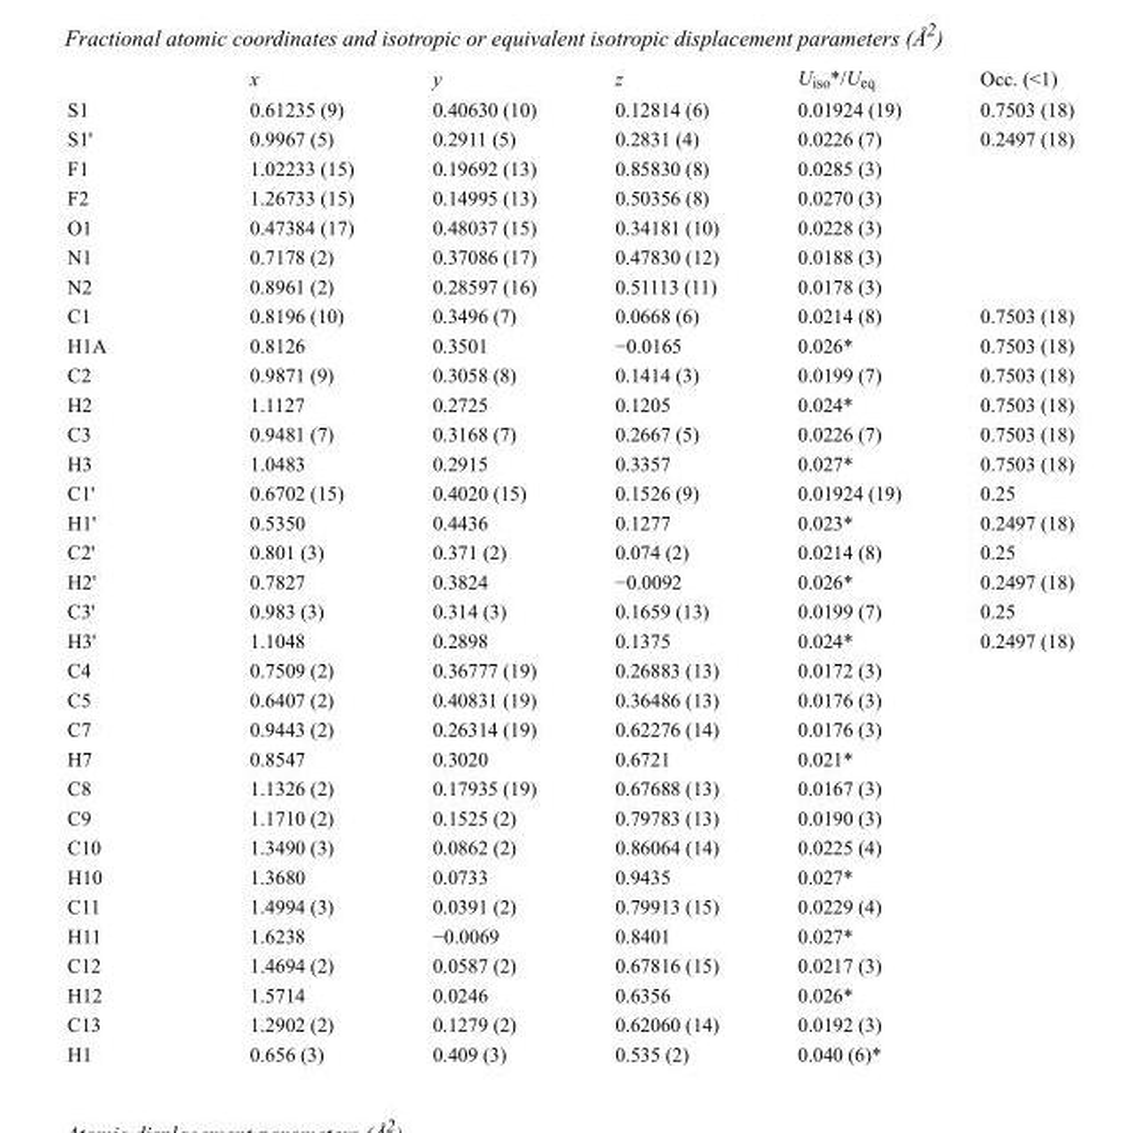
<table><thead><tr><td></td><td>x</td><td>y</td><td>z</td><td>U<sub>iso</sub>*/U<sub>eq</sub></td><td>Occ. (&lt;1)</td></tr></thead><tbody><tr><td>S1</td><td>0.61235 (9)</td><td>0.40630 (10)</td><td>0.12814 (6)</td><td>0.01924 (19)</td><td>0.7503 (18)</td></tr><tr><td>S1&#x27;</td><td>0.9967 (5)</td><td>0.2911 (5)</td><td>0.2831 (4)</td><td>0.0226 (7)</td><td>0.2497 (18)</td></tr><tr><td>F1</td><td>1.02233 (15)</td><td>0.19692 (13)</td><td>0.85830 (8)</td><td>0.0285 (3)</td><td></td></tr><tr><td>F2</td><td>1.26733 (15)</td><td>0.14995 (13)</td><td>0.50356 (8)</td><td>0.0270 (3)</td><td></td></tr><tr><td>O1</td><td>0.47384 (17)</td><td>0.48037 (15)</td><td>0.34181 (10)</td><td>0.0228 (3)</td><td></td></tr><tr><td>N1</td><td>0.7178 (2)</td><td>0.37086 (17)</td><td>0.47830 (12)</td><td>0.0188 (3)</td><td></td></tr><tr><td>N2</td><td>0.8961 (2)</td><td>0.28597 (16)</td><td>0.51113 (11)</td><td>0.0178 (3)</td><td></td></tr><tr><td>C1</td><td>0.8196 (10)</td><td>0.3496 (7)</td><td>0.0668 (6)</td><td>0.0214 (8)</td><td>0.7503 (18)</td></tr><tr><td>H1A</td><td>0.8126</td><td>0.3501</td><td>−0.0165</td><td>0.026*</td><td>0.7503 (18)</td></tr><tr><td>C2</td><td>0.9871 (9)</td><td>0.3058 (8)</td><td>0.1414 (3)</td><td>0.0199 (7)</td><td>0.7503 (18)</td></tr><tr><td>H2</td><td>1.1127</td><td>0.2725</td><td>0.1205</td><td>0.024*</td><td>0.7503 (18)</td></tr><tr><td>C3</td><td>0.9481 (7)</td><td>0.3168 (7)</td><td>0.2667 (5)</td><td>0.0226 (7)</td><td>0.7503 (18)</td></tr><tr><td>H3</td><td>1.0483</td><td>0.2915</td><td>0.3357</td><td>0.027*</td><td>0.7503 (18)</td></tr><tr><td>C1&#x27;</td><td>0.6702 (15)</td><td>0.4020 (15)</td><td>0.1526 (9)</td><td>0.01924 (19)</td><td>0.25</td></tr><tr><td>H1&#x27;</td><td>0.5350</td><td>0.4436</td><td>0.1277</td><td>0.023*</td><td>0.2497 (18)</td></tr><tr><td>C2&#x27;</td><td>0.801 (3)</td><td>0.371 (2)</td><td>0.074 (2)</td><td>0.0214 (8)</td><td>0.25</td></tr><tr><td>H2&#x27;</td><td>0.7827</td><td>0.3824</td><td>−0.0092</td><td>0.026*</td><td>0.2497 (18)</td></tr><tr><td>C3&#x27;</td><td>0.983 (3)</td><td>0.314 (3)</td><td>0.1659 (13)</td><td>0.0199 (7)</td><td>0.25</td></tr><tr><td>H3&#x27;</td><td>1.1048</td><td>0.2898</td><td>0.1375</td><td>0.024*</td><td>0.2497 (18)</td></tr><tr><td>C4</td><td>0.7509 (2)</td><td>0.36777 (19)</td><td>0.26883 (13)</td><td>0.0172 (3)</td><td></td></tr><tr><td>C5</td><td>0.6407 (2)</td><td>0.40831 (19)</td><td>0.36486 (13)</td><td>0.0176 (3)</td><td></td></tr><tr><td>C7</td><td>0.9443 (2)</td><td>0.26314 (19)</td><td>0.62276 (14)</td><td>0.0176 (3)</td><td></td></tr><tr><td>H7</td><td>0.8547</td><td>0.3020</td><td>0.6721</td><td>0.021*</td><td></td></tr><tr><td>C8</td><td>1.1326 (2)</td><td>0.17935 (19)</td><td>0.67688 (13)</td><td>0.0167 (3)</td><td></td></tr><tr><td>C9</td><td>1.1710 (2)</td><td>0.1525 (2)</td><td>0.79783 (13)</td><td>0.0190 (3)</td><td></td></tr><tr><td>C10</td><td>1.3490 (3)</td><td>0.0862 (2)</td><td>0.86064 (14)</td><td>0.0225 (4)</td><td></td></tr><tr><td>H10</td><td>1.3680</td><td>0.0733</td><td>0.9435</td><td>0.027*</td><td></td></tr><tr><td>C11</td><td>1.4994 (3)</td><td>0.0391 (2)</td><td>0.79913 (15)</td><td>0.0229 (4)</td><td></td></tr><tr><td>H11</td><td>1.6238</td><td>−0.0069</td><td>0.8401</td><td>0.027*</td><td></td></tr><tr><td>C12</td><td>1.4694 (2)</td><td>0.0587 (2)</td><td>0.67816 (15)</td><td>0.0217 (3)</td><td></td></tr><tr><td>H12</td><td>1.5714</td><td>0.0246</td><td>0.6356</td><td>0.026*</td><td></td></tr><tr><td>C13</td><td>1.2902 (2)</td><td>0.1279 (2)</td><td>0.62060 (14)</td><td>0.0192 (3)</td><td></td></tr><tr><td>H1</td><td>0.656 (3)</td><td>0.409 (3)</td><td>0.535 (2)</td><td>0.040 (6)*</td><td></td></tr></tbody></table>